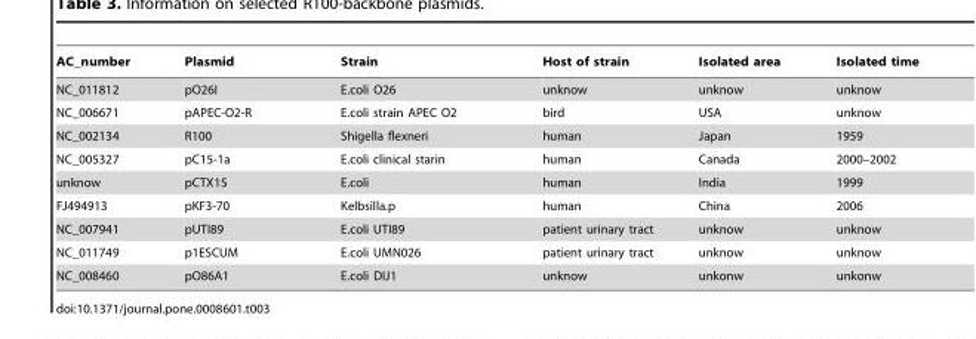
<table><thead><tr><td>AC_number</td><td>Plasmid</td><td>Strain</td><td>Host of strain</td><td>Isolated area</td><td>Isolated time</td></tr></thead><tbody><tr><td>NC_011812</td><td>pO26I</td><td>E.coli O26</td><td>unknow</td><td>unknow</td><td>unknow</td></tr><tr><td>NC_006671</td><td>pAPEC-O2-R</td><td>E.coli strain APEC O2</td><td>bird</td><td>USA</td><td>unknow</td></tr><tr><td>NC_002134</td><td>R100</td><td>Shigella flexneri</td><td>human</td><td>Japan</td><td>1959</td></tr><tr><td>NC_005327</td><td>pC15-1a</td><td>E.coli clinical starin</td><td>human</td><td>Canada</td><td>2000–2002</td></tr><tr><td>unknow</td><td>pCTX15</td><td>E.coli</td><td>human</td><td>India</td><td>1999</td></tr><tr><td>FJ494913</td><td>pKF3-70</td><td>Kelbsilla.p</td><td>human</td><td>China</td><td>2006</td></tr><tr><td>NC_007941</td><td>pUTI89</td><td>E.coli UTI89</td><td>patient urinary tract</td><td>unknow</td><td>unknow</td></tr><tr><td>NC_011749</td><td>p1ESCUM</td><td>E.coli UMN026</td><td>patient urinary tract</td><td>unknow</td><td>unknow</td></tr><tr><td>NC_008460</td><td>pO86A1</td><td>E.coli DIJ1</td><td>unknow</td><td>unkonw</td><td>unkonw</td></tr></tbody></table>